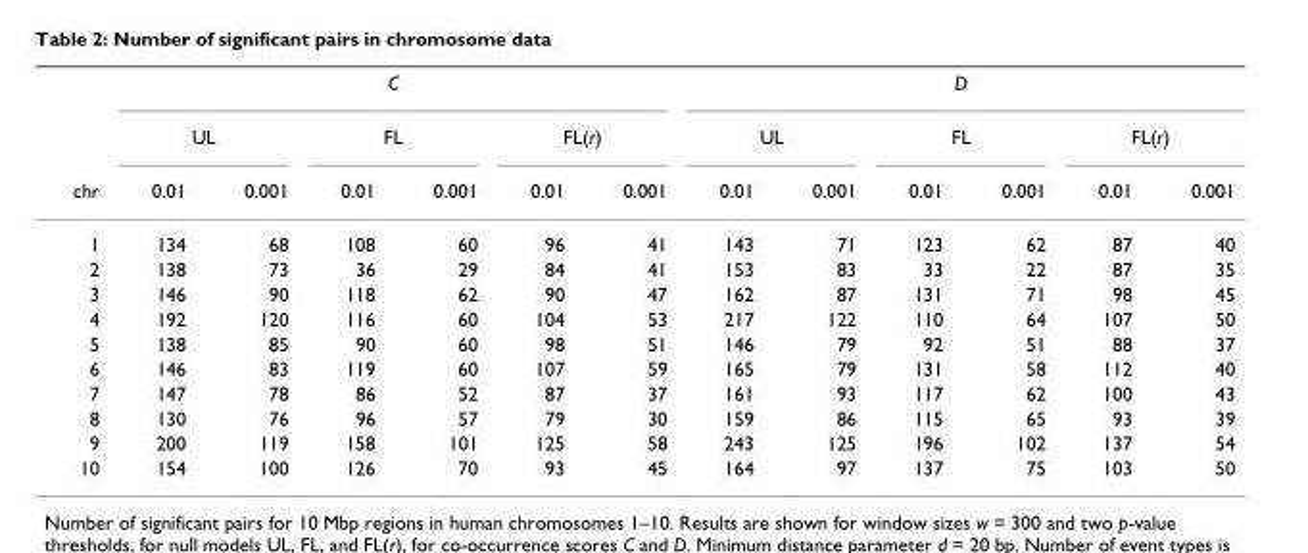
<table><thead><tr><td rowspan="3">chr</td><td colspan="6">C</td><td colspan="6">D</td></tr><tr><td colspan="2">UL</td><td colspan="2">FL</td><td colspan="2">FL(r)</td><td colspan="2">UL</td><td colspan="2">FL</td><td colspan="2">FL(r)</td></tr><tr><td>0.01</td><td>0.001</td><td>0.01</td><td>0.001</td><td>0.01</td><td>0.001</td><td>0.01</td><td>0.001</td><td>0.01</td><td>0.001</td><td>0.01</td><td>0.001</td></tr></thead><tbody><tr><td>1</td><td>134</td><td>68</td><td>108</td><td>60</td><td>96</td><td>41</td><td>143</td><td>71</td><td>123</td><td>62</td><td>87</td><td>40</td></tr><tr><td>2</td><td>138</td><td>73</td><td>36</td><td>29</td><td>84</td><td>41</td><td>153</td><td>83</td><td>33</td><td>22</td><td>87</td><td>35</td></tr><tr><td>3</td><td>146</td><td>90</td><td>118</td><td>62</td><td>90</td><td>47</td><td>162</td><td>87</td><td>131</td><td>71</td><td>98</td><td>45</td></tr><tr><td>4</td><td>192</td><td>120</td><td>116</td><td>60</td><td>104</td><td>53</td><td>217</td><td>122</td><td>110</td><td>64</td><td>107</td><td>50</td></tr><tr><td>5</td><td>138</td><td>85</td><td>90</td><td>60</td><td>98</td><td>51</td><td>146</td><td>79</td><td>92</td><td>51</td><td>88</td><td>37</td></tr><tr><td>6</td><td>146</td><td>83</td><td>119</td><td>60</td><td>107</td><td>59</td><td>165</td><td>79</td><td>131</td><td>58</td><td>112</td><td>40</td></tr><tr><td>7</td><td>147</td><td>78</td><td>86</td><td>52</td><td>87</td><td>37</td><td>161</td><td>93</td><td>117</td><td>62</td><td>100</td><td>43</td></tr><tr><td>8</td><td>130</td><td>76</td><td>96</td><td>57</td><td>79</td><td>30</td><td>159</td><td>86</td><td>115</td><td>65</td><td>93</td><td>39</td></tr><tr><td>9</td><td>200</td><td>119</td><td>158</td><td>101</td><td>125</td><td>58</td><td>243</td><td>125</td><td>196</td><td>102</td><td>137</td><td>54</td></tr><tr><td>10</td><td>154</td><td>100</td><td>126</td><td>70</td><td>93</td><td>45</td><td>164</td><td>97</td><td>137</td><td>75</td><td>103</td><td>50</td></tr></tbody></table>